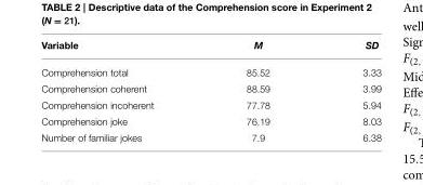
<table><thead><tr><td>Variable</td><td>M</td><td>SD</td></tr></thead><tbody><tr><td>Comprehension total</td><td>85.52</td><td>3.33</td></tr><tr><td>Comprehension coherent</td><td>88.59</td><td>3.99</td></tr><tr><td>Comprehension incoherent</td><td>77.78</td><td>5.94</td></tr><tr><td>Comprehension joke</td><td>76.19</td><td>8.03</td></tr><tr><td>Number of familiar jokes</td><td>7.9</td><td>6.38</td></tr></tbody></table>